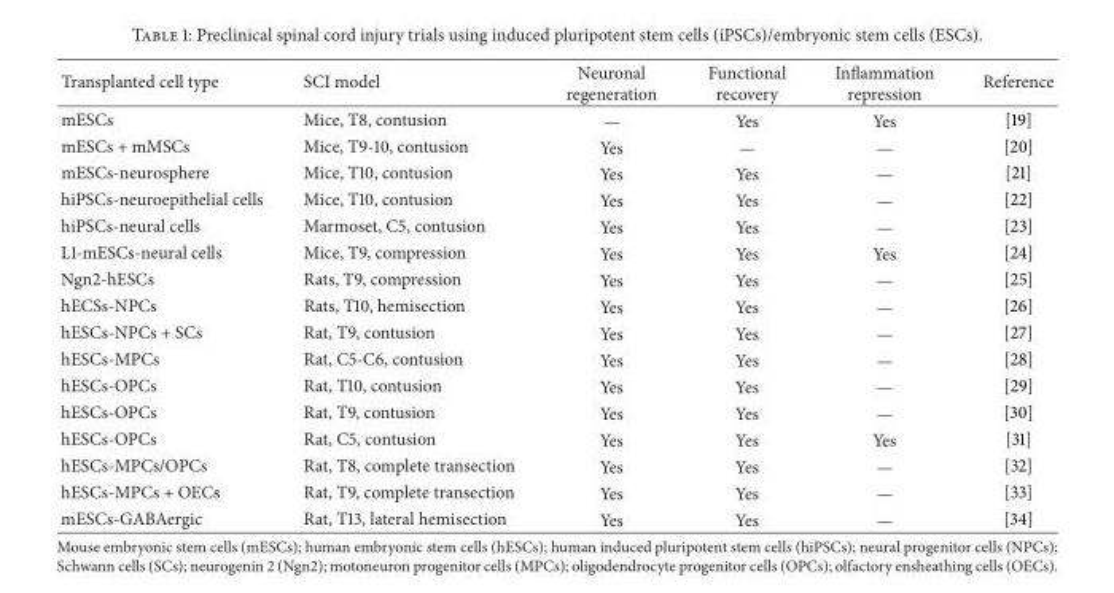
<table><thead><tr><td>Transplanted cell type</td><td>SCI model</td><td>Neuronal regeneration</td><td>Functional recovery</td><td>Inflammation repression</td><td>Reference</td></tr></thead><tbody><tr><td>mESCs</td><td>Mice, T8, contusion</td><td>—</td><td>Yes</td><td>Yes</td><td>[19]</td></tr><tr><td>mESCs + mMSCs</td><td>Mice, T9-10, contusion</td><td>Yes</td><td>—</td><td>—</td><td>[20]</td></tr><tr><td>mESCs-neurosphere</td><td>Mice, T10, contusion</td><td>Yes</td><td>Yes</td><td>—</td><td>[21]</td></tr><tr><td>hiPSCs-neuroepithelial cells</td><td>Mice, T10, contusion</td><td>Yes</td><td>Yes</td><td>—</td><td>[22]</td></tr><tr><td>hiPSCs-neural cells</td><td>Marmoset, C5, contusion</td><td>Yes</td><td>Yes</td><td>—</td><td>[23]</td></tr><tr><td>L1-mESCs-neural cells</td><td>Mice, T9, compression</td><td>Yes</td><td>Yes</td><td>Yes</td><td>[24]</td></tr><tr><td>Ngn2-hESCs</td><td>Rats, T9, compression</td><td>Yes</td><td>Yes</td><td>—</td><td>[25]</td></tr><tr><td>hECSs-NPCs</td><td>Rats, T10, hemisection</td><td>Yes</td><td>Yes</td><td>—</td><td>[26]</td></tr><tr><td>hESCs-NPCs + SCs</td><td>Rat, T9, contusion</td><td>Yes</td><td>Yes</td><td>—</td><td>[27]</td></tr><tr><td>hESCs-MPCs</td><td>Rat, C5-C6, contusion</td><td>Yes</td><td>Yes</td><td>—</td><td>[28]</td></tr><tr><td>hESCs-OPCs</td><td>Rat, T10, contusion</td><td>Yes</td><td>Yes</td><td>—</td><td>[29]</td></tr><tr><td>hESCs-OPCs</td><td>Rat, T9, contusion</td><td>Yes</td><td>Yes</td><td>—</td><td>[30]</td></tr><tr><td>hESCs-OPCs</td><td>Rat, C5, contusion</td><td>Yes</td><td>Yes</td><td>Yes</td><td>[31]</td></tr><tr><td>hESCs-MPCs/OPCs</td><td>Rat, T8, complete transection</td><td>Yes</td><td>Yes</td><td>—</td><td>[32]</td></tr><tr><td>hESCs-MPCs + OECs</td><td>Rat, T9, complete transection</td><td>Yes</td><td>Yes</td><td>—</td><td>[33]</td></tr><tr><td>mESCs-GABAergic</td><td>Rat, T13, lateral hemisection</td><td>Yes</td><td>Yes</td><td>—</td><td>[34]</td></tr></tbody></table>